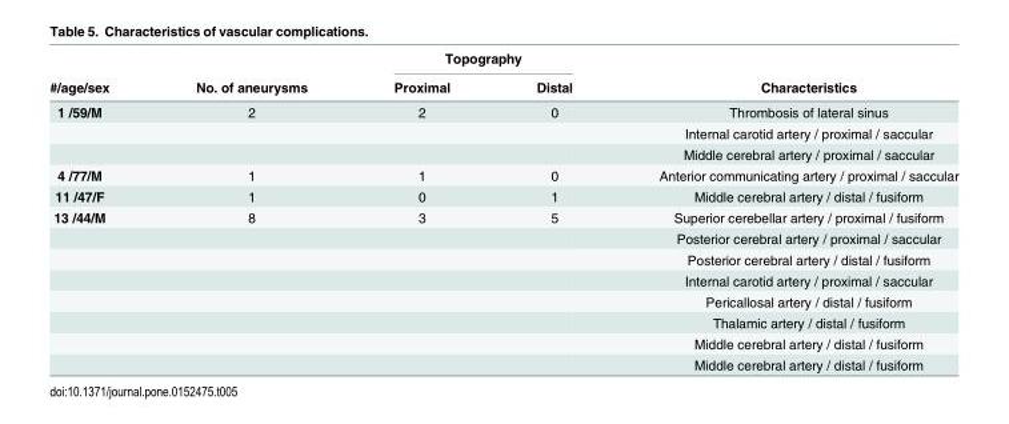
<table><thead><tr><td rowspan="2">#/age/sex</td><td rowspan="2">No. of aneurysms</td><td colspan="2">Topography</td><td rowspan="2">Characteristics</td></tr><tr><td>Proximal</td><td>Distal</td></tr></thead><tbody><tr><td rowspan="3">1 /59/M</td><td>2</td><td>2</td><td>0</td><td>Thrombosis of lateral sinus</td></tr><tr><td></td><td></td><td></td><td>Internal carotid artery / proximal / saccular</td></tr><tr><td></td><td></td><td></td><td>Middle cerebral artery / proximal / saccular</td></tr><tr><td>4 /77/M</td><td>1</td><td>1</td><td>0</td><td>Anterior communicating artery / proximal / saccular</td></tr><tr><td>11 /47/F</td><td>1</td><td>0</td><td>1</td><td>Middle cerebral artery / distal / fusiform</td></tr><tr><td rowspan="8">13 /44/M</td><td>8</td><td>3</td><td>5</td><td>Superior cerebellar artery / proximal / fusiform</td></tr><tr><td></td><td></td><td></td><td>Posterior cerebral artery / proximal / saccular</td></tr><tr><td></td><td></td><td></td><td>Posterior cerebral artery / distal / fusiform</td></tr><tr><td></td><td></td><td></td><td>Internal carotid artery / proximal / saccular</td></tr><tr><td></td><td></td><td></td><td>Pericallosal artery / distal / fusiform</td></tr><tr><td></td><td></td><td></td><td>Thalamic artery / distal / fusiform</td></tr><tr><td></td><td></td><td></td><td>Middle cerebral artery / distal / fusiform</td></tr><tr><td></td><td></td><td></td><td>Middle cerebral artery / distal / fusiform</td></tr></tbody></table>